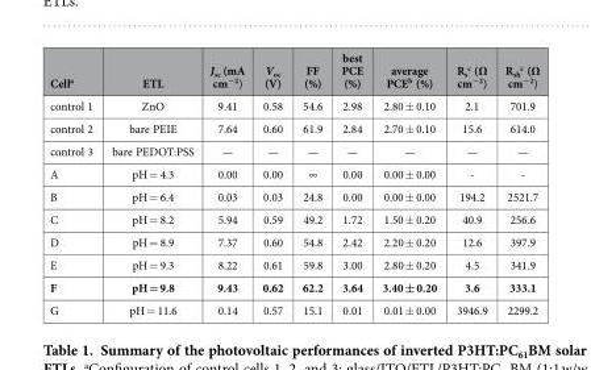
<table><thead><tr><td>Cell<sup>a</sup></td><td>ETL</td><td>J<sub>sc</sub> (mA cm<sup>−2</sup>)</td><td>V<sub>oc</sub> (V)</td><td>FF (%)</td><td>best PCE (%)</td><td>average PCE<sup>b</sup> (%)</td><td>R<sub>s</sub> <sup>c</sup> (Ω cm<sup>−2</sup>)</td><td>R<sub>sh</sub> <sup>c</sup> (Ω cm<sup>−2</sup>)</td></tr></thead><tbody><tr><td>control 1</td><td>ZnO</td><td>9.41</td><td>0.58</td><td>54.6</td><td>2.98</td><td>2.80 ± 0.10</td><td>2.1</td><td>701.9</td></tr><tr><td>control 2</td><td>bare PEIE</td><td>7.64</td><td>0.60</td><td>61.9</td><td>2.84</td><td>2.70 ± 0.10</td><td>15.6</td><td>614.0</td></tr><tr><td>control 3</td><td>bare PEDOT:PSS</td><td>—</td><td>—</td><td>—</td><td>—</td><td>—</td><td>—</td><td>—</td></tr><tr><td>A</td><td>pH = 4.3</td><td>0.00</td><td>0.00</td><td>∞</td><td>0.00</td><td>0.00 ± 0.00</td><td>-</td><td>-</td></tr><tr><td>B</td><td>pH = 6.4</td><td>0.03</td><td>0.03</td><td>24.8</td><td>0.00</td><td>0.00 ± 0.00</td><td>194.2</td><td>2521.7</td></tr><tr><td>C</td><td>pH = 8.2</td><td>5.94</td><td>0.59</td><td>49.2</td><td>1.72</td><td>1.50 ± 0.20</td><td>40.9</td><td>256.6</td></tr><tr><td>D</td><td>pH = 8.9</td><td>7.37</td><td>0.60</td><td>54.8</td><td>2.42</td><td>2.20 ± 0.20</td><td>12.6</td><td>397.9</td></tr><tr><td>E</td><td>pH = 9.3</td><td>8.22</td><td>0.61</td><td>59.8</td><td>3.00</td><td>2.80 ± 0.20</td><td>4.5</td><td>341.9</td></tr><tr><td>F</td><td>pH = 9.8</td><td>9.43</td><td>0.62</td><td>62.2</td><td>3.64</td><td>3.40 ± 0.20</td><td>3.6</td><td>333.1</td></tr><tr><td>G</td><td>pH = 11.6</td><td>0.14</td><td>0.57</td><td>15.1</td><td>0.01</td><td>0.01 ± 0.00</td><td>3946.9</td><td>2299.2</td></tr></tbody></table>